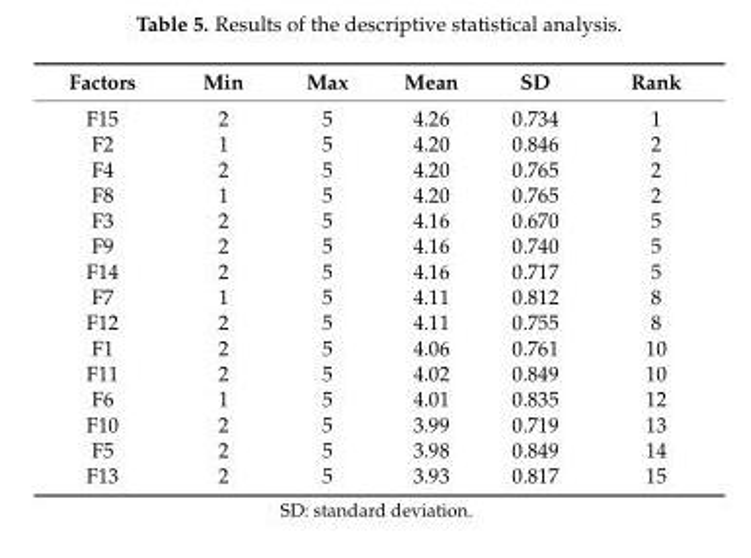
<table><thead><tr><td>Factors</td><td>Min</td><td>Max</td><td>Mean</td><td>SD</td><td>Rank</td></tr></thead><tbody><tr><td>F15</td><td>2</td><td>5</td><td>4.26</td><td>0.734</td><td>1</td></tr><tr><td>F2</td><td>1</td><td>5</td><td>4.20</td><td>0.846</td><td>2</td></tr><tr><td>F4</td><td>2</td><td>5</td><td>4.20</td><td>0.765</td><td>2</td></tr><tr><td>F8</td><td>1</td><td>5</td><td>4.20</td><td>0.765</td><td>2</td></tr><tr><td>F3</td><td>2</td><td>5</td><td>4.16</td><td>0.670</td><td>5</td></tr><tr><td>F9</td><td>2</td><td>5</td><td>4.16</td><td>0.740</td><td>5</td></tr><tr><td>F14</td><td>2</td><td>5</td><td>4.16</td><td>0.717</td><td>5</td></tr><tr><td>F7</td><td>1</td><td>5</td><td>4.11</td><td>0.812</td><td>8</td></tr><tr><td>F12</td><td>2</td><td>5</td><td>4.11</td><td>0.755</td><td>8</td></tr><tr><td>F1</td><td>2</td><td>5</td><td>4.06</td><td>0.761</td><td>10</td></tr><tr><td>F11</td><td>2</td><td>5</td><td>4.02</td><td>0.849</td><td>10</td></tr><tr><td>F6</td><td>1</td><td>5</td><td>4.01</td><td>0.835</td><td>12</td></tr><tr><td>F10</td><td>2</td><td>5</td><td>3.99</td><td>0.719</td><td>13</td></tr><tr><td>F5</td><td>2</td><td>5</td><td>3.98</td><td>0.849</td><td>14</td></tr><tr><td>F13</td><td>2</td><td>5</td><td>3.93</td><td>0.817</td><td>15</td></tr></tbody></table>